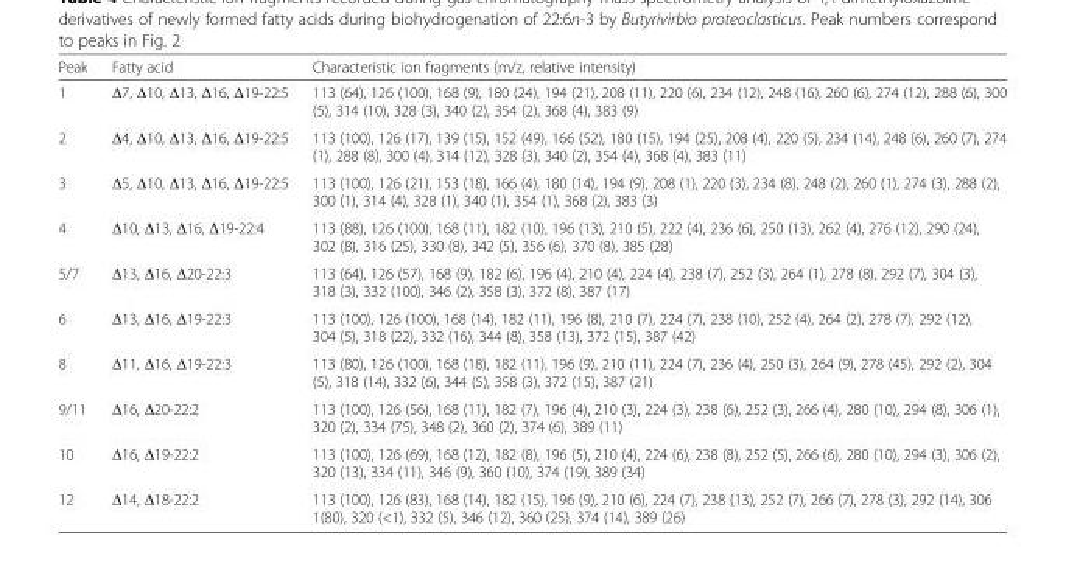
<table><thead><tr><td>Peak</td><td>Fatty acid</td><td>Characteristic ion fragments (m/z, relative intensity)</td></tr></thead><tbody><tr><td>1</td><td>Δ7, Δ10, Δ13, Δ16, Δ19-22:5</td><td>113 (64), 126 (100), 168 (9), 180 (24), 194 (21), 208 (11), 220 (6), 234 (12), 248 (16), 260 (6), 274 (12), 288 (6), 300 (5), 314 (10), 328 (3), 340 (2), 354 (2), 368 (4), 383 (9)</td></tr><tr><td>2</td><td>Δ4, Δ10, Δ13, Δ16, Δ19-22:5</td><td>113 (100), 126 (17), 139 (15), 152 (49), 166 (52), 180 (15), 194 (25), 208 (4), 220 (5), 234 (14), 248 (6), 260 (7), 274 (1), 288 (8), 300 (4), 314 (12), 328 (3), 340 (2), 354 (4), 368 (4), 383 (11)</td></tr><tr><td>3</td><td>Δ5, Δ10, Δ13, Δ16, Δ19-22:5</td><td>113 (100), 126 (21), 153 (18), 166 (4), 180 (14), 194 (9), 208 (1), 220 (3), 234 (8), 248 (2), 260 (1), 274 (3), 288 (2), 300 (1), 314 (4), 328 (1), 340 (1), 354 (1), 368 (2), 383 (3)</td></tr><tr><td>4</td><td>Δ10, Δ13, Δ16, Δ19-22:4</td><td>113 (88), 126 (100), 168 (11), 182 (10), 196 (13), 210 (5), 222 (4), 236 (6), 250 (13), 262 (4), 276 (12), 290 (24), 302 (8), 316 (25), 330 (8), 342 (5), 356 (6), 370 (8), 385 (28)</td></tr><tr><td>5/7</td><td>Δ13, Δ16, Δ20-22:3</td><td>113 (64), 126 (57), 168 (9), 182 (6), 196 (4), 210 (4), 224 (4), 238 (7), 252 (3), 264 (1), 278 (8), 292 (7), 304 (3), 318 (3), 332 (100), 346 (2), 358 (3), 372 (8), 387 (17)</td></tr><tr><td>6</td><td>Δ13, Δ16, Δ19-22:3</td><td>113 (100), 126 (100), 168 (14), 182 (11), 196 (8), 210 (7), 224 (7), 238 (10), 252 (4), 264 (2), 278 (7), 292 (12), 304 (5), 318 (22), 332 (16), 344 (8), 358 (13), 372 (15), 387 (42)</td></tr><tr><td>8</td><td>Δ11, Δ16, Δ19-22:3</td><td>113 (80), 126 (100), 168 (18), 182 (11), 196 (9), 210 (11), 224 (7), 236 (4), 250 (3), 264 (9), 278 (45), 292 (2), 304 (5), 318 (14), 332 (6), 344 (5), 358 (3), 372 (15), 387 (21)</td></tr><tr><td>9/11</td><td>Δ16, Δ20-22:2</td><td>113 (100), 126 (56), 168 (11), 182 (7), 196 (4), 210 (3), 224 (3), 238 (6), 252 (3), 266 (4), 280 (10), 294 (8), 306 (1), 320 (2), 334 (75), 348 (2), 360 (2), 374 (6), 389 (11)</td></tr><tr><td>10</td><td>Δ16, Δ19-22:2</td><td>113 (100), 126 (69), 168 (12), 182 (8), 196 (5), 210 (4), 224 (6), 238 (8), 252 (5), 266 (6), 280 (10), 294 (3), 306 (2), 320 (13), 334 (11), 346 (9), 360 (10), 374 (19), 389 (34)</td></tr><tr><td>12</td><td>Δ14, Δ18-22:2</td><td>113 (100), 126 (83), 168 (14), 182 (15), 196 (9), 210 (6), 224 (7), 238 (13), 252 (7), 266 (7), 278 (3), 292 (14), 306 1(80), 320 (&lt;1), 332 (5), 346 (12), 360 (25), 374 (14), 389 (26)</td></tr></tbody></table>